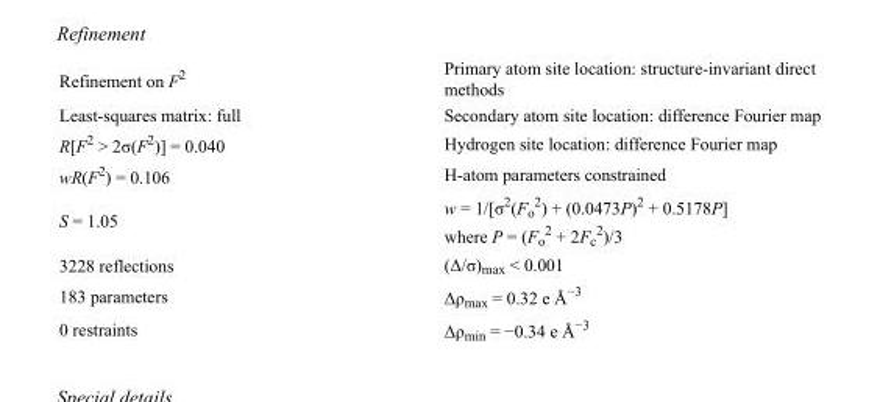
<table><tbody><tr><td>Refinement on F<sup>2</sup></td><td>Primary atom site location: structure-invariant direct methods</td></tr><tr><td>Least-squares matrix: full</td><td>Secondary atom site location: difference Fourier map</td></tr><tr><td>R[F<sup>2</sup> &gt; 2σ(F<sup>2</sup>)] = 0.040</td><td>Hydrogen site location: difference Fourier map</td></tr><tr><td>wR(F<sup>2</sup>) = 0.106</td><td>H-atom parameters constrained</td></tr><tr><td>S = 1.05</td><td>w = 1/[σ<sup>2</sup>(F<sub>o</sub> <sup>2</sup>) + (0.0473P)<sup>2</sup> + 0.5178P] where P = (F<sub>o</sub> <sup>2</sup> + 2F<sub>c</sub> <sup>2</sup>)/3</td></tr><tr><td>3228 reflections</td><td>(Δ/σ)<sub>max</sub> &lt; 0.001</td></tr><tr><td>183 parameters</td><td>Δρ<sub>max</sub> = 0.32 e Å<sup>−3</sup></td></tr><tr><td>0 restraints</td><td>Δρ<sub>min</sub> = −0.34 e Å<sup>−3</sup></td></tr></tbody></table>